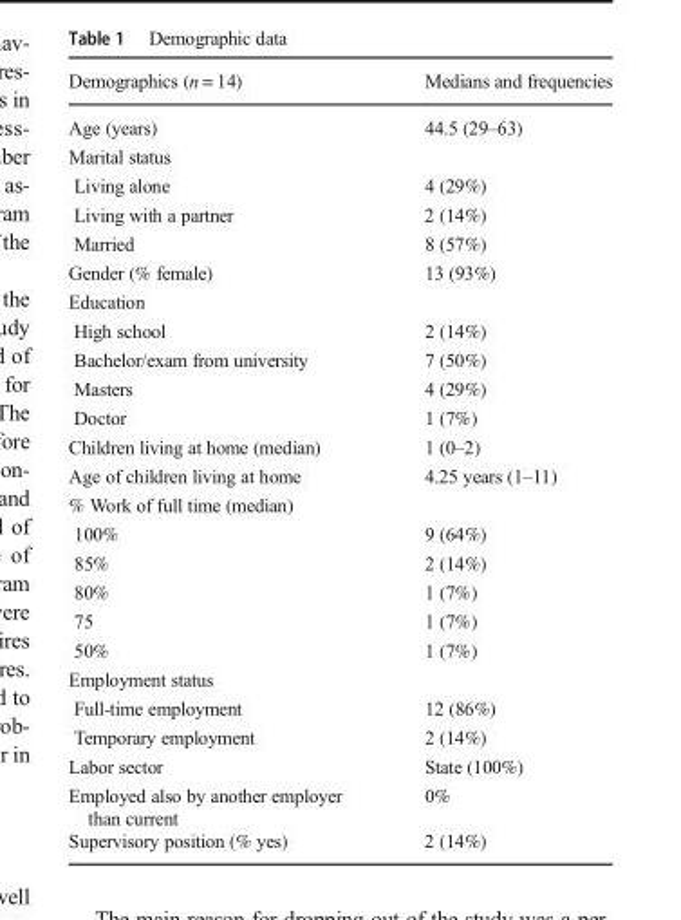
<table><thead><tr><td>Demographics (n = 14)</td><td>Medians and frequencies</td></tr></thead><tbody><tr><td>Age (years)</td><td>44.5 (29–63)</td></tr><tr><td colspan="2">Marital status</td></tr><tr><td>Living alone</td><td>4 (29%)</td></tr><tr><td>Living with a partner</td><td>2 (14%)</td></tr><tr><td>Married</td><td>8 (57%)</td></tr><tr><td>Gender (% female)</td><td>13 (93%)</td></tr><tr><td colspan="2">Education</td></tr><tr><td>High school</td><td>2 (14%)</td></tr><tr><td>Bachelor/exam from university</td><td>7 (50%)</td></tr><tr><td>Masters</td><td>4 (29%)</td></tr><tr><td>Doctor</td><td>1 (7%)</td></tr><tr><td>Children living at home (median)</td><td>1 (0–2)</td></tr><tr><td>Age of children living at home</td><td>4.25 years (1–11)</td></tr><tr><td colspan="2">% Work of full time (median)</td></tr><tr><td>100%</td><td>9 (64%)</td></tr><tr><td>85%</td><td>2 (14%)</td></tr><tr><td>80%</td><td>1 (7%)</td></tr><tr><td>75</td><td>1 (7%)</td></tr><tr><td>50%</td><td>1 (7%)</td></tr><tr><td colspan="2">Employment status</td></tr><tr><td>Full-time employment</td><td>12 (86%)</td></tr><tr><td>Temporary employment</td><td>2 (14%)</td></tr><tr><td>Labor sector</td><td>State (100%)</td></tr><tr><td>Employed also by another employer than current</td><td>0%</td></tr><tr><td>Supervisory position (% yes)</td><td>2 (14%)</td></tr></tbody></table>